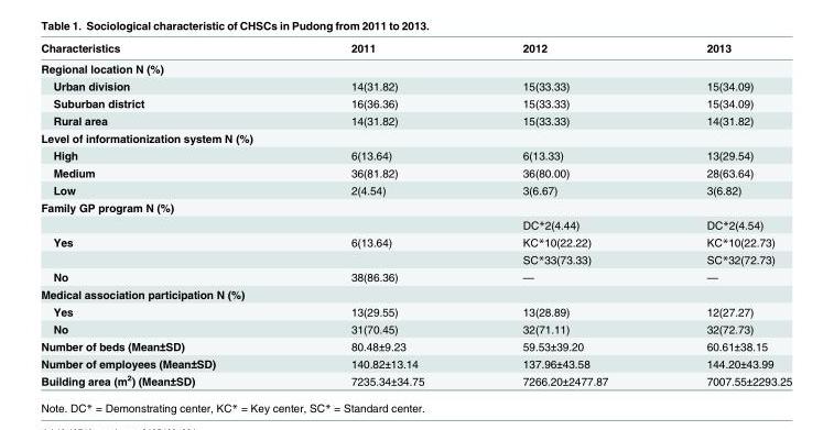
<table><thead><tr><td>Characteristics</td><td>2011</td><td>2012</td><td>2013</td></tr></thead><tbody><tr><td colspan="4">Regional location N (%)</td></tr><tr><td>Urban division</td><td>14(31.82)</td><td>15(33.33)</td><td>15(34.09)</td></tr><tr><td>Suburban district</td><td>16(36.36)</td><td>15(33.33)</td><td>15(34.09)</td></tr><tr><td>Rural area</td><td>14(31.82)</td><td>15(33.33)</td><td>14(31.82)</td></tr><tr><td colspan="4">Level of informationization system N (%)</td></tr><tr><td>High</td><td>6(13.64)</td><td>6(13.33)</td><td>13(29.54)</td></tr><tr><td>Medium</td><td>36(81.82)</td><td>36(80.00)</td><td>28(63.64)</td></tr><tr><td>Low</td><td>2(4.54)</td><td>3(6.67)</td><td>3(6.82)</td></tr><tr><td colspan="4">Family GP program N (%)</td></tr><tr><td></td><td></td><td>DC*2(4.44)</td><td>DC*2(4.54)</td></tr><tr><td rowspan="2">Yes</td><td>6(13.64)</td><td>KC*10(22.22)</td><td>KC*10(22.73)</td></tr><tr><td></td><td>SC*33(73.33)</td><td>SC*32(72.73)</td></tr><tr><td>No</td><td>38(86.36)</td><td>—</td><td>—</td></tr><tr><td colspan="4">Medical association participation N (%)</td></tr><tr><td>Yes</td><td>13(29.55)</td><td>13(28.89)</td><td>12(27.27)</td></tr><tr><td>No</td><td>31(70.45)</td><td>32(71.11)</td><td>32(72.73)</td></tr><tr><td>Number of beds (Mean±SD)</td><td>80.48±9.23</td><td>59.53±39.20</td><td>60.61±38.15</td></tr><tr><td>Number of employees (Mean±SD)</td><td>140.82±13.14</td><td>137.96±43.58</td><td>144.20±43.99</td></tr><tr><td>Building area (m<sup>2</sup>) (Mean±SD)</td><td>7235.34±34.75</td><td>7266.20±2477.87</td><td>7007.55±2293.25</td></tr></tbody></table>